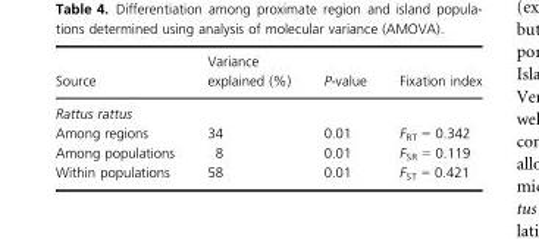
<table><thead><tr><td>Source</td><td>Variance explained (%)</td><td>P-value</td><td>Fixation index</td></tr></thead><tbody><tr><td colspan="4">Rattus rattus</td></tr><tr><td>Among regions</td><td>34</td><td>0.01</td><td>F<sub>RT</sub> = 0.342</td></tr><tr><td>Among populations</td><td>8</td><td>0.01</td><td>F<sub>SR</sub> = 0.119</td></tr><tr><td>Within populations</td><td>58</td><td>0.01</td><td>F<sub>ST</sub> = 0.421</td></tr></tbody></table>